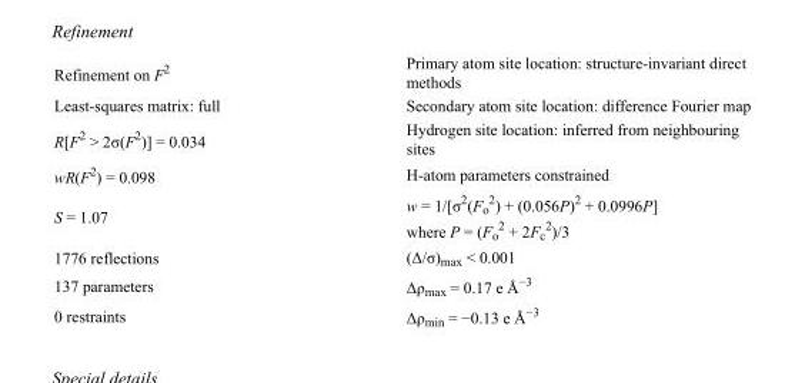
<table><tbody><tr><td>Refinement on F<sup>2</sup></td><td>Primary atom site location: structure-invariant direct methods</td></tr><tr><td>Least-squares matrix: full</td><td>Secondary atom site location: difference Fourier map</td></tr><tr><td>R[F<sup>2</sup> &gt; 2σ(F<sup>2</sup>)] = 0.034</td><td>Hydrogen site location: inferred from neighbouring sites</td></tr><tr><td>wR(F<sup>2</sup>) = 0.098</td><td>H-atom parameters constrained</td></tr><tr><td>S = 1.07</td><td>w = 1/[σ<sup>2</sup>(F<sub>o</sub> <sup>2</sup>) + (0.056P)<sup>2</sup> + 0.0996P] where P = (F<sub>o</sub> <sup>2</sup> + 2F<sub>c</sub> <sup>2</sup>)/3</td></tr><tr><td>1776 reflections</td><td>(Δ/σ)<sub>max</sub> &lt; 0.001</td></tr><tr><td>137 parameters</td><td>Δρ<sub>max</sub> = 0.17 e Å<sup>−3</sup></td></tr><tr><td>0 restraints</td><td>Δρ<sub>min</sub> = −0.13 e Å<sup>−3</sup></td></tr></tbody></table>